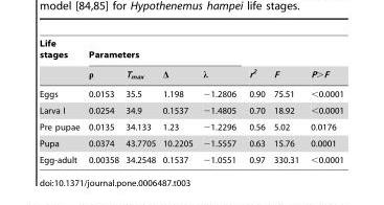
<table><thead><tr><td rowspan="2">Life stages</td><td colspan="4">Parameters</td><td rowspan="2">r<sup>2</sup></td><td rowspan="2">F</td><td rowspan="2">P&gt;F</td></tr><tr><td>ρ</td><td>T<sub>max</sub></td><td>Δ</td><td>λ</td></tr></thead><tbody><tr><td>Eggs</td><td>0.0153</td><td>35.5</td><td>1.198</td><td>−1.2806</td><td>0.90</td><td>75.51</td><td>&lt;0.0001</td></tr><tr><td>Larva I</td><td>0.0254</td><td>34.9</td><td>0.1537</td><td>−1.4805</td><td>0.70</td><td>18.92</td><td>&lt;0.0001</td></tr><tr><td>Pre pupae</td><td>0.0135</td><td>34.133</td><td>1.23</td><td>−1.2296</td><td>0.56</td><td>5.02</td><td>0.0176</td></tr><tr><td>Pupa</td><td>0.0374</td><td>43.7705</td><td>10.2205</td><td>−1.5557</td><td>0.63</td><td>15.76</td><td>0.0001</td></tr><tr><td>Egg-adult</td><td>0.00358</td><td>34.2548</td><td>0.1537</td><td>−1.0551</td><td>0.97</td><td>330.31</td><td>&lt;0.0001</td></tr></tbody></table>